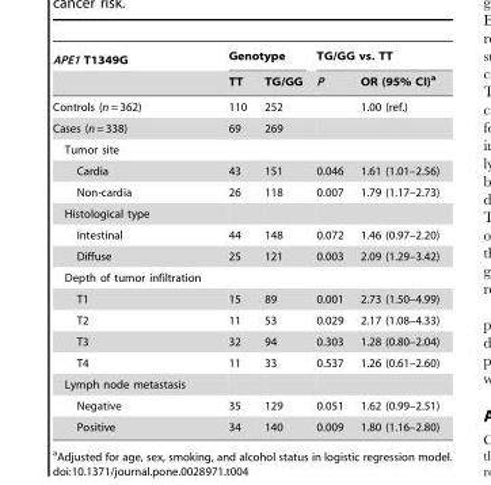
<table><thead><tr><td rowspan="2">APE1 T1349G</td><td colspan="2">Genotype</td><td colspan="2">TG/GG vs. TT</td></tr><tr><td>TT</td><td>TG/GG</td><td>P</td><td>OR (95% CI)<sup>a</sup></td></tr></thead><tbody><tr><td>Controls (n = 362)</td><td>110</td><td>252</td><td></td><td>1.00 (ref.)</td></tr><tr><td>Cases (n = 338)</td><td>69</td><td>269</td><td></td><td></td></tr><tr><td colspan="5">Tumor site</td></tr><tr><td>Cardia</td><td>43</td><td>151</td><td>0.046</td><td>1.61 (1.01–2.56)</td></tr><tr><td>Non-cardia</td><td>26</td><td>118</td><td>0.007</td><td>1.79 (1.17–2.73)</td></tr><tr><td colspan="5">Histological type</td></tr><tr><td>Intestinal</td><td>44</td><td>148</td><td>0.072</td><td>1.46 (0.97–2.20)</td></tr><tr><td>Diffuse</td><td>25</td><td>121</td><td>0.003</td><td>2.09 (1.29–3.42)</td></tr><tr><td colspan="5">Depth of tumor infiltration</td></tr><tr><td>T1</td><td>15</td><td>89</td><td>0.001</td><td>2.73 (1.50–4.99)</td></tr><tr><td>T2</td><td>11</td><td>53</td><td>0.029</td><td>2.17 (1.08–4.33)</td></tr><tr><td>T3</td><td>32</td><td>94</td><td>0.303</td><td>1.28 (0.80–2.04)</td></tr><tr><td>T4</td><td>11</td><td>33</td><td>0.537</td><td>1.26 (0.61–2.60)</td></tr><tr><td colspan="5">Lymph node metastasis</td></tr><tr><td>Negative</td><td>35</td><td>129</td><td>0.051</td><td>1.62 (0.99–2.51)</td></tr><tr><td>Positive</td><td>34</td><td>140</td><td>0.009</td><td>1.80 (1.16–2.80)</td></tr></tbody></table>